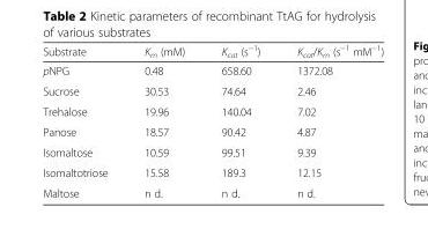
<table><thead><tr><td>Substrate</td><td>K<sub>m</sub> (mM)</td><td>K<sub>cat</sub> (s<sup>−1</sup>)</td><td>K<sub>cat</sub>/K<sub>m</sub> (s<sup>−1</sup> mM<sup>−1</sup>)</td></tr></thead><tbody><tr><td>pNPG</td><td>0.48</td><td>658.60</td><td>1372.08</td></tr><tr><td>Sucrose</td><td>30.53</td><td>74.64</td><td>2.46</td></tr><tr><td>Trehalose</td><td>19.96</td><td>140.04</td><td>7.02</td></tr><tr><td>Panose</td><td>18.57</td><td>90.42</td><td>4.87</td></tr><tr><td>Isomaltose</td><td>10.59</td><td>99.51</td><td>9.39</td></tr><tr><td>Isomaltotriose</td><td>15.58</td><td>189.3</td><td>12.15</td></tr><tr><td>Maltose</td><td>n d.</td><td>n d.</td><td>n d.</td></tr></tbody></table>